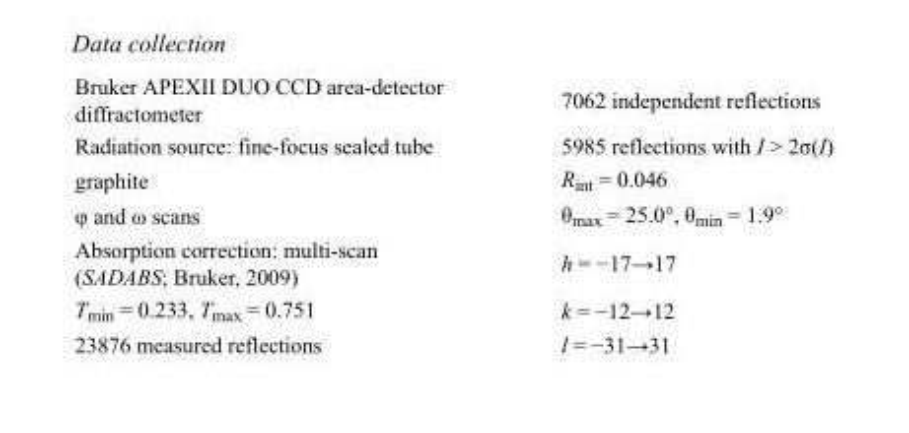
<table><tbody><tr><td>Bruker APEXII DUO CCD area-detector diffractometer</td><td>7062 independent reflections</td></tr><tr><td>Radiation source: fine-focus sealed tube</td><td>5985 reflections with I &gt; 2σ(I)</td></tr><tr><td>graphite</td><td>R<sub>int</sub> = 0.046</td></tr><tr><td>φ and ω scans</td><td>θ<sub>max</sub> = 25.0°, θ<sub>min</sub> = 1.9°</td></tr><tr><td>Absorption correction: multi-scan (SADABS; Bruker, 2009)</td><td>h = −17→17</td></tr><tr><td>T<sub>min</sub> = 0.233, T<sub>max</sub> = 0.751</td><td>k = −12→12</td></tr><tr><td>23876 measured reflections</td><td>l = −31→31</td></tr></tbody></table>